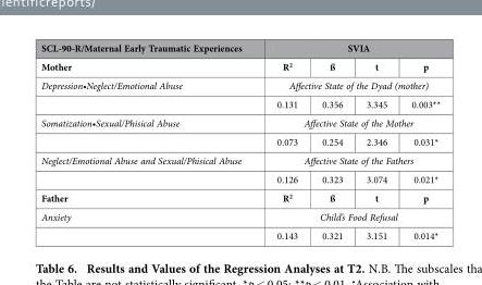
<table><thead><tr><td rowspan="2">SCL-90-R/Maternal Early Traumatic Experiences Mother</td><td colspan="4">SVIA</td></tr><tr><td>R2</td><td>ß</td><td>t</td><td>p</td></tr></thead><tbody><tr><td rowspan="2">Depression•Neglect/Emotional Abuse</td><td colspan="4">Affective State of the Dyad (mother)</td></tr><tr><td>0.131</td><td>0.356</td><td>3.345</td><td>0.003**</td></tr><tr><td rowspan="2">Somatization•Sexual/Phisical Abuse</td><td colspan="4">Affective State of the Mother</td></tr><tr><td>0.073</td><td>0.254</td><td>2.346</td><td>0.031*</td></tr><tr><td rowspan="2">Neglect/Emotional Abuse and Sexual/Phisical Abuse</td><td colspan="4">Affective State of the Fathers</td></tr><tr><td>0.126</td><td>0.323</td><td>3.074</td><td>0.021*</td></tr><tr><td>Father</td><td>R<sup>2</sup></td><td>ß</td><td>t</td><td>p</td></tr><tr><td rowspan="2">Anxiety</td><td colspan="4">Child’s Food Refusal</td></tr><tr><td>0.143</td><td>0.321</td><td>3.151</td><td>0.014*</td></tr></tbody></table>